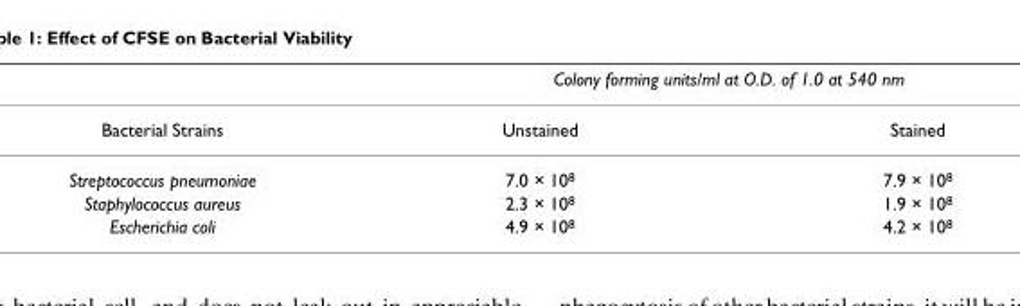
<table><thead><tr><td rowspan="2">Bacterial Strains</td><td colspan="2">Colony forming units/ml at O.D. of 1.0 at 540 nm</td></tr><tr><td>Unstained</td><td>Stained</td></tr></thead><tbody><tr><td>Streptococcus pneumoniae</td><td>7.0 × 108</td><td>7.9 × 108</td></tr><tr><td>Staphylococcus aureus</td><td>2.3 × 108</td><td>1.9 × 108</td></tr><tr><td>Escherichia coli</td><td>4.9 × 108</td><td>4.2 × 108</td></tr></tbody></table>